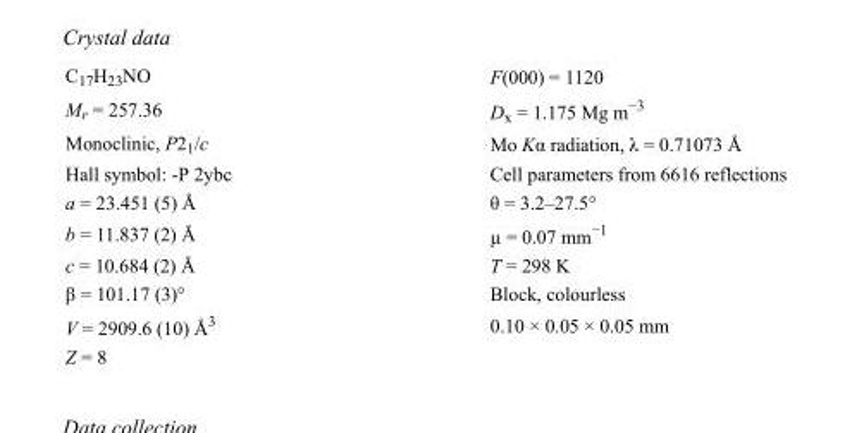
<table><tbody><tr><td>C<sub>17</sub>H<sub>23</sub>NO</td><td>F(000) = 1120</td></tr><tr><td>M<sub>r</sub> = 257.36</td><td>D<sub>x</sub> = 1.175 Mg m<sup>−3</sup></td></tr><tr><td>Monoclinic, P2<sub>1</sub>/c</td><td>Mo Kα radiation, λ = 0.71073 Å</td></tr><tr><td>Hall symbol: -P 2ybc</td><td>Cell parameters from 6616 reflections</td></tr><tr><td>a = 23.451 (5) Å</td><td>θ = 3.2–27.5°</td></tr><tr><td>b = 11.837 (2) Å</td><td>µ = 0.07 mm<sup>−1</sup></td></tr><tr><td>c = 10.684 (2) Å</td><td>T = 298 K</td></tr><tr><td>β = 101.17 (3)°</td><td>Block, colourless</td></tr><tr><td>V = 2909.6 (10) Å<sup>3</sup></td><td>0.10 × 0.05 × 0.05 mm</td></tr><tr><td>Z = 8</td><td></td></tr></tbody></table>